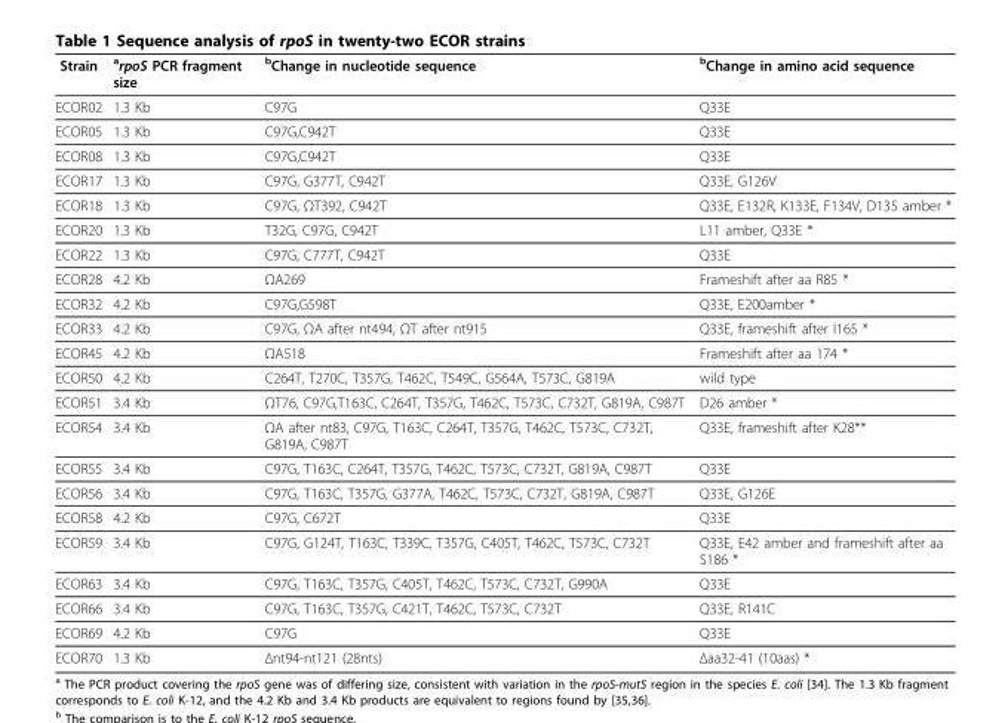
<table><thead><tr><td>Strain</td><td><sup>a</sup>rpoS PCR fragment size</td><td><sup>b</sup>Change in nucleotide sequence</td><td><sup>b</sup>Change in amino acid sequence</td></tr></thead><tbody><tr><td>ECOR02</td><td>1.3 Kb</td><td>C97G</td><td>Q33E</td></tr><tr><td>ECOR05</td><td>1.3 Kb</td><td>C97G,C942T</td><td>Q33E</td></tr><tr><td>ECOR08</td><td>1.3 Kb</td><td>C97G,C942T</td><td>Q33E</td></tr><tr><td>ECOR17</td><td>1.3 Kb</td><td>C97G, G377T, C942T</td><td>Q33E, G126V</td></tr><tr><td>ECOR18</td><td>1.3 Kb</td><td>C97G, ΩT392, C942T</td><td>Q33E, E132R, K133E, F134V, D135 amber *</td></tr><tr><td>ECOR20</td><td>1.3 Kb</td><td>T32G, C97G, C942T</td><td>L11 amber, Q33E *</td></tr><tr><td>ECOR22</td><td>1.3 Kb</td><td>C97G, C777T, C942T</td><td>Q33E</td></tr><tr><td>ECOR28</td><td>4.2 Kb</td><td>ΩA269</td><td>Frameshift after aa R85 *</td></tr><tr><td>ECOR32</td><td>4.2 Kb</td><td>C97G,G598T</td><td>Q33E, E200amber *</td></tr><tr><td>ECOR33</td><td>4.2 Kb</td><td>C97G, ΩA after nt494, ΩT after nt915</td><td>Q33E, frameshift after I165 *</td></tr><tr><td>ECOR45</td><td>4.2 Kb</td><td>ΩA518</td><td>Frameshift after aa 174 *</td></tr><tr><td>ECOR50</td><td>4.2 Kb</td><td>C264T, T270C, T357G, T462C, T549C, G564A, T573C, G819A</td><td>wild type</td></tr><tr><td>ECOR51</td><td>3.4 Kb</td><td>ΩT76, C97G,T163C, C264T, T357G, T462C, T573C, C732T, G819A, C987T</td><td>D26 amber *</td></tr><tr><td>ECOR54</td><td>3.4 Kb</td><td>ΩA after nt83, C97G, T163C, C264T, T357G, T462C, T573C, C732T, G819A, C987T</td><td>Q33E, frameshift after K28**</td></tr><tr><td>ECOR55</td><td>3.4 Kb</td><td>C97G, T163C, C264T, T357G, T462C, T573C, C732T, G819A, C987T</td><td>Q33E</td></tr><tr><td>ECOR56</td><td>3.4 Kb</td><td>C97G, T163C, T357G, G377A, T462C, T573C, C732T, G819A, C987T</td><td>Q33E, G126E</td></tr><tr><td>ECOR58</td><td>4.2 Kb</td><td>C97G, C672T</td><td>Q33E</td></tr><tr><td>ECOR59</td><td>3.4 Kb</td><td>C97G, G124T, T163C, T339C, T357G, C405T, T462C, T573C, C732T</td><td>Q33E, E42 amber and frameshift after aa S186 *</td></tr><tr><td>ECOR63</td><td>3.4 Kb</td><td>C97G, T163C, T357G, C405T, T462C, T573C, C732T, G990A</td><td>Q33E</td></tr><tr><td>ECOR66</td><td>3.4 Kb</td><td>C97G, T163C, T357G, C421T, T462C, T573C, C732T</td><td>Q33E, R141C</td></tr><tr><td>ECOR69</td><td>4.2 Kb</td><td>C97G</td><td>Q33E</td></tr><tr><td>ECOR70</td><td>1.3 Kb</td><td>Δnt94-nt121 (28nts)</td><td>Δaa32-41 (10aas) *</td></tr></tbody></table>